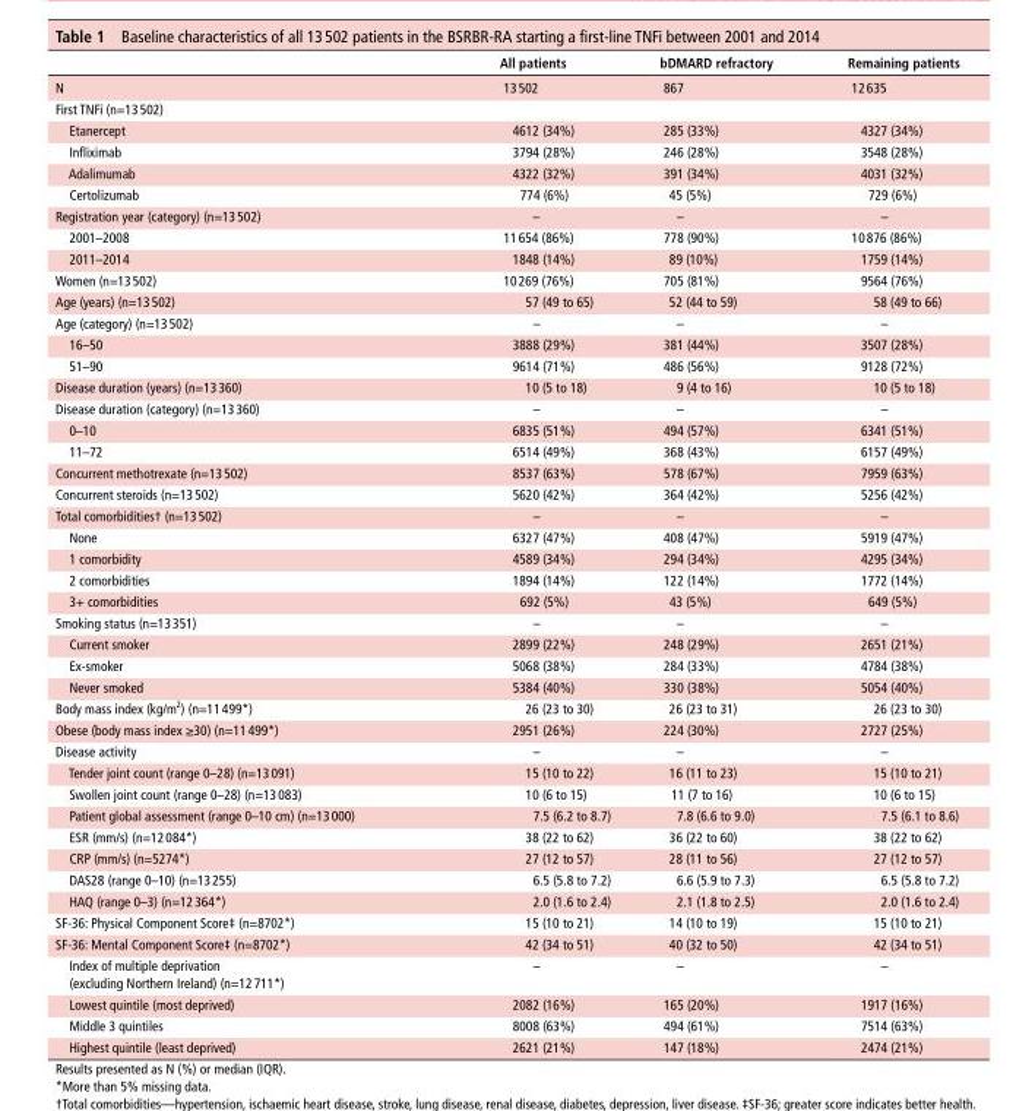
<table><thead><tr><td></td><td>All patients</td><td>bdMArd refractory</td><td>remaining patients</td></tr></thead><tbody><tr><td>N</td><td>13 502</td><td>867</td><td>12 635</td></tr><tr><td colspan="4">First TNFi (n=13 502)</td></tr><tr><td>Etanercept</td><td>4612 (34%)</td><td>285 (33%)</td><td>4327 (34%)</td></tr><tr><td>Infliximab</td><td>3794 (28%)</td><td>246 (28%)</td><td>3548 (28%)</td></tr><tr><td>Adalimumab</td><td>4322 (32%)</td><td>391 (34%)</td><td>4031 (32%)</td></tr><tr><td>Certolizumab</td><td>774 (6%)</td><td>45 (5%)</td><td>729 (6%)</td></tr><tr><td>Registration year (category) (n=13 502)</td><td>–</td><td>–</td><td>–</td></tr><tr><td>2001–2008</td><td>11 654 (86%)</td><td>778 (90%)</td><td>10 876 (86%)</td></tr><tr><td>2011–2014</td><td>1848 (14%)</td><td>89 (10%)</td><td>1759 (14%)</td></tr><tr><td>Women (n=13 502)</td><td>10 269 (76%)</td><td>705 (81%)</td><td>9564 (76%)</td></tr><tr><td>Age (years) (n=13 502)</td><td>57 (49 to 65)</td><td>52 (44 to 59)</td><td>58 (49 to 66)</td></tr><tr><td>Age (category) (n=13 502)</td><td>–</td><td>–</td><td>–</td></tr><tr><td>16–50</td><td>3888 (29%)</td><td>381 (44%)</td><td>3507 (28%)</td></tr><tr><td>51–90</td><td>9614 (71%)</td><td>486 (56%)</td><td>9128 (72%)</td></tr><tr><td>Disease duration (years) (n=13 360)</td><td>10 (5 to 18)</td><td>9 (4 to 16)</td><td>10 (5 to 18)</td></tr><tr><td>Disease duration (category) (n=13 360)</td><td>–</td><td>–</td><td>–</td></tr><tr><td>0–10</td><td>6835 (51%)</td><td>494 (57%)</td><td>6341 (51%)</td></tr><tr><td>11–72</td><td>6514 (49%)</td><td>368 (43%)</td><td>6157 (49%)</td></tr><tr><td>Concurrent methotrexate (n=13 502)</td><td>8537 (63%)</td><td>578 (67%)</td><td>7959 (63%)</td></tr><tr><td>Concurrent steroids (n=13 502)</td><td>5620 (42%)</td><td>364 (42%)</td><td>5256 (42%)</td></tr><tr><td>Total comorbidities† (n=13 502)</td><td>–</td><td>–</td><td>–</td></tr><tr><td>None</td><td>6327 (47%)</td><td>408 (47%)</td><td>5919 (47%)</td></tr><tr><td>1 comorbidity</td><td>4589 (34%)</td><td>294 (34%)</td><td>4295 (34%)</td></tr><tr><td>2 comorbidities</td><td>1894 (14%)</td><td>122 (14%)</td><td>1772 (14%)</td></tr><tr><td>3+ comorbidities</td><td>692 (5%)</td><td>43 (5%)</td><td>649 (5%)</td></tr><tr><td>Smoking status (n=13 351)</td><td>–</td><td>–</td><td>–</td></tr><tr><td>Current smoker</td><td>2899 (22%)</td><td>248 (29%)</td><td>2651 (21%)</td></tr><tr><td>Ex-smoker</td><td>5068 (38%)</td><td>284 (33%)</td><td>4784 (38%)</td></tr><tr><td>Never smoked</td><td>5384 (40%)</td><td>330 (38%)</td><td>5054 (40%)</td></tr><tr><td>Body mass index (kg/m<sup>2</sup>) (n=11 499*)</td><td>26 (23 to 30)</td><td>26 (23 to 31)</td><td>26 (23 to 30)</td></tr><tr><td>Obese (body mass index ≥30) (n=11 499*)</td><td>2951 (26%)</td><td>224 (30%)</td><td>2727 (25%)</td></tr><tr><td>Disease activity</td><td>–</td><td>–</td><td>–</td></tr><tr><td>Tender joint count (range 0–28) (n=13 091)</td><td>15 (10 to 22)</td><td>16 (11 to 23)</td><td>15 (10 to 21)</td></tr><tr><td>Swollen joint count (range 0–28) (n=13 083)</td><td>10 (6 to 15)</td><td>11 (7 to 16)</td><td>10 (6 to 15)</td></tr><tr><td>Patient global assessment (range 0–10 cm) (n=13 000)</td><td>7.5 (6.2 to 8.7)</td><td>7.8 (6.6 to 9.0)</td><td>7.5 (6.1 to 8.6)</td></tr><tr><td>ESR (mm/s) (n=12 084*)</td><td>38 (22 to 62)</td><td>36 (22 to 60)</td><td>38 (22 to 62)</td></tr><tr><td>CRP (mm/s) (n=5274*)</td><td>27 (12 to 57)</td><td>28 (11 to 56)</td><td>27 (12 to 57)</td></tr><tr><td>DAS28 (range 0–10) (n=13 255)</td><td>6.5 (5.8 to 7.2)</td><td>6.6 (5.9 to 7.3)</td><td>6.5 (5.8 to 7.2)</td></tr><tr><td>HAQ (range 0–3) (n=12 364*)</td><td>2.0 (1.6 to 2.4)</td><td>2.1 (1.8 to 2.5)</td><td>2.0 (1.6 to 2.4)</td></tr><tr><td>SF-36: Physical Component Score‡ (n=8702*)</td><td>15 (10 to 21)</td><td>14 (10 to 19)</td><td>15 (10 to 21)</td></tr><tr><td>SF-36: Mental Component Score‡ (n=8702*)</td><td>42 (34 to 51)</td><td>40 (32 to 50)</td><td>42 (34 to 51)</td></tr><tr><td>Index of multiple deprivation (excluding Northern Ireland) (n=12 711*)</td><td>–</td><td>–</td><td>–</td></tr><tr><td>Lowest quintile (most deprived)</td><td>2082 (16%)</td><td>165 (20%)</td><td>1917 (16%)</td></tr><tr><td>Middle 3 quintiles</td><td>8008 (63%)</td><td>494 (61%)</td><td>7514 (63%)</td></tr><tr><td>Highest quintile (least deprived)</td><td>2621 (21%)</td><td>147 (18%)</td><td>2474 (21%)</td></tr></tbody></table>